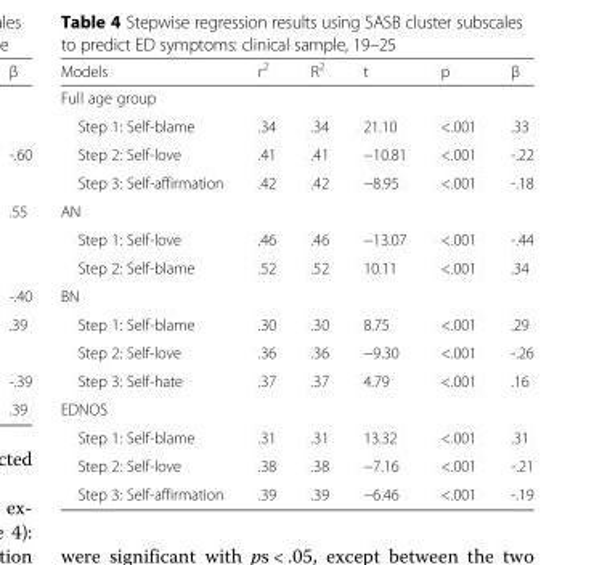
<table><thead><tr><td>Models</td><td>r<sup>2</sup></td><td>R<sup>2</sup></td><td>t</td><td>p</td><td>β</td></tr></thead><tbody><tr><td colspan="6">Full age group</td></tr><tr><td>Step 1: Self-blame</td><td>.34</td><td>.34</td><td>21.10</td><td>&lt;.001</td><td>.33</td></tr><tr><td>Step 2: Self-love</td><td>.41</td><td>.41</td><td>−10.81</td><td>&lt;.001</td><td>-.22</td></tr><tr><td>Step 3: Self-affirmation</td><td>.42</td><td>.42</td><td>−8.95</td><td>&lt;.001</td><td>-.18</td></tr><tr><td colspan="6">AN</td></tr><tr><td>Step 1: Self-love</td><td>.46</td><td>.46</td><td>−13.07</td><td>&lt;.001</td><td>-.44</td></tr><tr><td>Step 2: Self-blame</td><td>.52</td><td>.52</td><td>10.11</td><td>&lt;.001</td><td>.34</td></tr><tr><td colspan="6">BN</td></tr><tr><td>Step 1: Self-blame</td><td>.30</td><td>.30</td><td>8.75</td><td>&lt;.001</td><td>.29</td></tr><tr><td>Step 2: Self-love</td><td>.36</td><td>.36</td><td>−9.30</td><td>&lt;.001</td><td>-.26</td></tr><tr><td>Step 3: Self-hate</td><td>.37</td><td>.37</td><td>4.79</td><td>&lt;.001</td><td>.16</td></tr><tr><td colspan="6">EDNOS</td></tr><tr><td>Step 1: Self-blame</td><td>.31</td><td>.31</td><td>13.32</td><td>&lt;.001</td><td>.31</td></tr><tr><td>Step 2: Self-love</td><td>.38</td><td>.38</td><td>−7.16</td><td>&lt;.001</td><td>-.21</td></tr><tr><td>Step 3: Self-affirmation</td><td>.39</td><td>.39</td><td>−6.46</td><td>&lt;.001</td><td>-.19</td></tr></tbody></table>